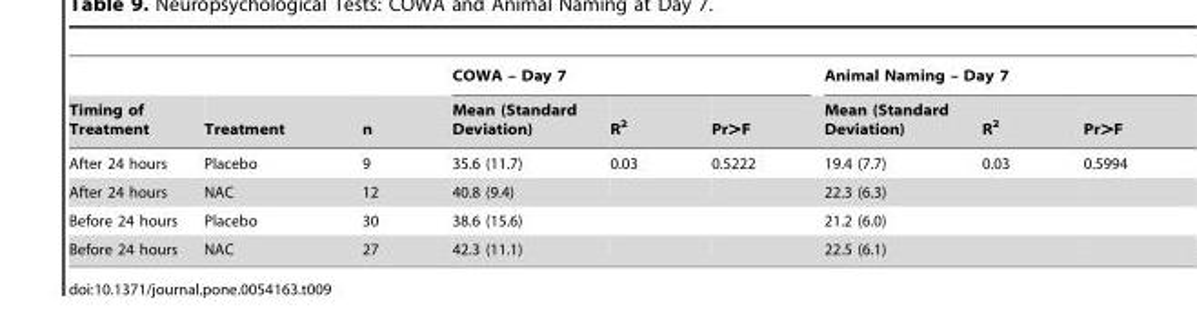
<table><thead><tr><td rowspan="2">Timing of Treatment</td><td rowspan="2">Treatment</td><td rowspan="2">n</td><td colspan="3">COWA – Day 7</td><td colspan="3">Animal Naming – Day 7</td></tr><tr><td>Mean (Standard Deviation)</td><td>R<sup>2</sup></td><td>Pr&gt;F</td><td>Mean (Standard Deviation)</td><td>R<sup>2</sup></td><td>Pr&gt;F</td></tr></thead><tbody><tr><td>After 24 hours</td><td>Placebo</td><td>9</td><td>35.6 (11.7)</td><td>0.03</td><td>0.5222</td><td>19.4 (7.7)</td><td>0.03</td><td>0.5994</td></tr><tr><td>After 24 hours</td><td>NAC</td><td>12</td><td>40.8 (9.4)</td><td></td><td></td><td>22.3 (6.3)</td><td></td><td></td></tr><tr><td>Before 24 hours</td><td>Placebo</td><td>30</td><td>38.6 (15.6)</td><td></td><td></td><td>21.2 (6.0)</td><td></td><td></td></tr><tr><td>Before 24 hours</td><td>NAC</td><td>27</td><td>42.3 (11.1)</td><td></td><td></td><td>22.5 (6.1)</td><td></td><td></td></tr></tbody></table>